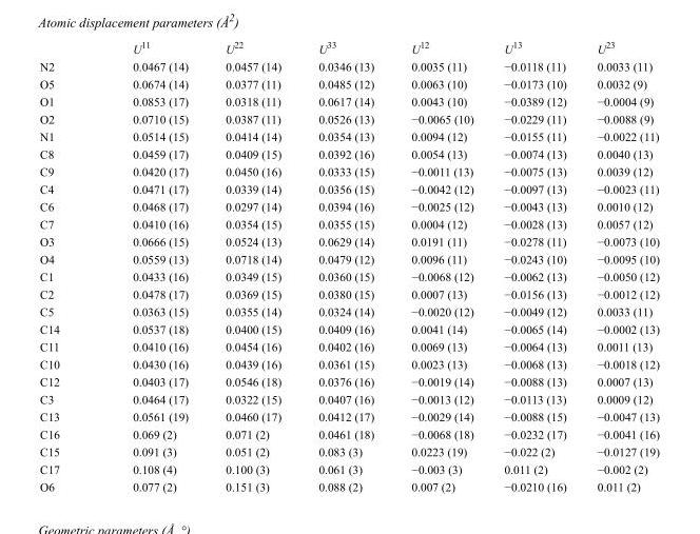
<table><thead><tr><td></td><td>U<sup>11</sup></td><td>U<sup>22</sup></td><td>U<sup>33</sup></td><td>U<sup>12</sup></td><td>U<sup>13</sup></td><td>U<sup>23</sup></td></tr></thead><tbody><tr><td>N2</td><td>0.0467 (14)</td><td>0.0457 (14)</td><td>0.0346 (13)</td><td>0.0035 (11)</td><td>−0.0118 (11)</td><td>0.0033 (11)</td></tr><tr><td>O5</td><td>0.0674 (14)</td><td>0.0377 (11)</td><td>0.0485 (12)</td><td>0.0063 (10)</td><td>−0.0173 (10)</td><td>0.0032 (9)</td></tr><tr><td>O1</td><td>0.0853 (17)</td><td>0.0318 (11)</td><td>0.0617 (14)</td><td>0.0043 (10)</td><td>−0.0389 (12)</td><td>−0.0004 (9)</td></tr><tr><td>O2</td><td>0.0710 (15)</td><td>0.0387 (11)</td><td>0.0526 (13)</td><td>−0.0065 (10)</td><td>−0.0229 (11)</td><td>−0.0088 (9)</td></tr><tr><td>N1</td><td>0.0514 (15)</td><td>0.0414 (14)</td><td>0.0354 (13)</td><td>0.0094 (12)</td><td>−0.0155 (11)</td><td>−0.0022 (11)</td></tr><tr><td>C8</td><td>0.0459 (17)</td><td>0.0409 (15)</td><td>0.0392 (16)</td><td>0.0054 (13)</td><td>−0.0074 (13)</td><td>0.0040 (13)</td></tr><tr><td>C9</td><td>0.0420 (17)</td><td>0.0450 (16)</td><td>0.0333 (15)</td><td>−0.0011 (13)</td><td>−0.0075 (13)</td><td>0.0039 (12)</td></tr><tr><td>C4</td><td>0.0471 (17)</td><td>0.0339 (14)</td><td>0.0356 (15)</td><td>−0.0042 (12)</td><td>−0.0097 (13)</td><td>−0.0023 (11)</td></tr><tr><td>C6</td><td>0.0468 (17)</td><td>0.0297 (14)</td><td>0.0394 (16)</td><td>−0.0025 (12)</td><td>−0.0043 (13)</td><td>0.0010 (12)</td></tr><tr><td>C7</td><td>0.0410 (16)</td><td>0.0354 (15)</td><td>0.0355 (15)</td><td>0.0004 (12)</td><td>−0.0028 (13)</td><td>0.0057 (12)</td></tr><tr><td>O3</td><td>0.0666 (15)</td><td>0.0524 (13)</td><td>0.0629 (14)</td><td>0.0191 (11)</td><td>−0.0278 (11)</td><td>−0.0073 (10)</td></tr><tr><td>O4</td><td>0.0559 (13)</td><td>0.0718 (14)</td><td>0.0479 (12)</td><td>0.0096 (11)</td><td>−0.0243 (10)</td><td>−0.0095 (10)</td></tr><tr><td>C1</td><td>0.0433 (16)</td><td>0.0349 (15)</td><td>0.0360 (15)</td><td>−0.0068 (12)</td><td>−0.0062 (13)</td><td>−0.0050 (12)</td></tr><tr><td>C2</td><td>0.0478 (17)</td><td>0.0369 (15)</td><td>0.0380 (15)</td><td>0.0007 (13)</td><td>−0.0156 (13)</td><td>−0.0012 (12)</td></tr><tr><td>C5</td><td>0.0363 (15)</td><td>0.0355 (14)</td><td>0.0324 (14)</td><td>−0.0020 (12)</td><td>−0.0049 (12)</td><td>0.0033 (11)</td></tr><tr><td>C14</td><td>0.0537 (18)</td><td>0.0400 (15)</td><td>0.0409 (16)</td><td>0.0041 (14)</td><td>−0.0065 (14)</td><td>−0.0002 (13)</td></tr><tr><td>C11</td><td>0.0410 (16)</td><td>0.0454 (16)</td><td>0.0402 (16)</td><td>0.0069 (13)</td><td>−0.0064 (13)</td><td>0.0011 (13)</td></tr><tr><td>C10</td><td>0.0430 (16)</td><td>0.0439 (16)</td><td>0.0361 (15)</td><td>0.0023 (13)</td><td>−0.0068 (13)</td><td>−0.0018 (12)</td></tr><tr><td>C12</td><td>0.0403 (17)</td><td>0.0546 (18)</td><td>0.0376 (16)</td><td>−0.0019 (14)</td><td>−0.0088 (13)</td><td>0.0007 (13)</td></tr><tr><td>C3</td><td>0.0464 (17)</td><td>0.0322 (15)</td><td>0.0407 (16)</td><td>−0.0013 (12)</td><td>−0.0113 (13)</td><td>0.0009 (12)</td></tr><tr><td>C13</td><td>0.0561 (19)</td><td>0.0460 (17)</td><td>0.0412 (17)</td><td>−0.0029 (14)</td><td>−0.0088 (15)</td><td>−0.0047 (13)</td></tr><tr><td>C16</td><td>0.069 (2)</td><td>0.071 (2)</td><td>0.0461 (18)</td><td>−0.0068 (18)</td><td>−0.0232 (17)</td><td>−0.0041 (16)</td></tr><tr><td>C15</td><td>0.091 (3)</td><td>0.051 (2)</td><td>0.083 (3)</td><td>0.0223 (19)</td><td>−0.022 (2)</td><td>−0.0127 (19)</td></tr><tr><td>C17</td><td>0.108 (4)</td><td>0.100 (3)</td><td>0.061 (3)</td><td>−0.003 (3)</td><td>0.011 (2)</td><td>−0.002 (2)</td></tr><tr><td>O6</td><td>0.077 (2)</td><td>0.151 (3)</td><td>0.088 (2)</td><td>0.007 (2)</td><td>−0.0210 (16)</td><td>0.011 (2)</td></tr></tbody></table>